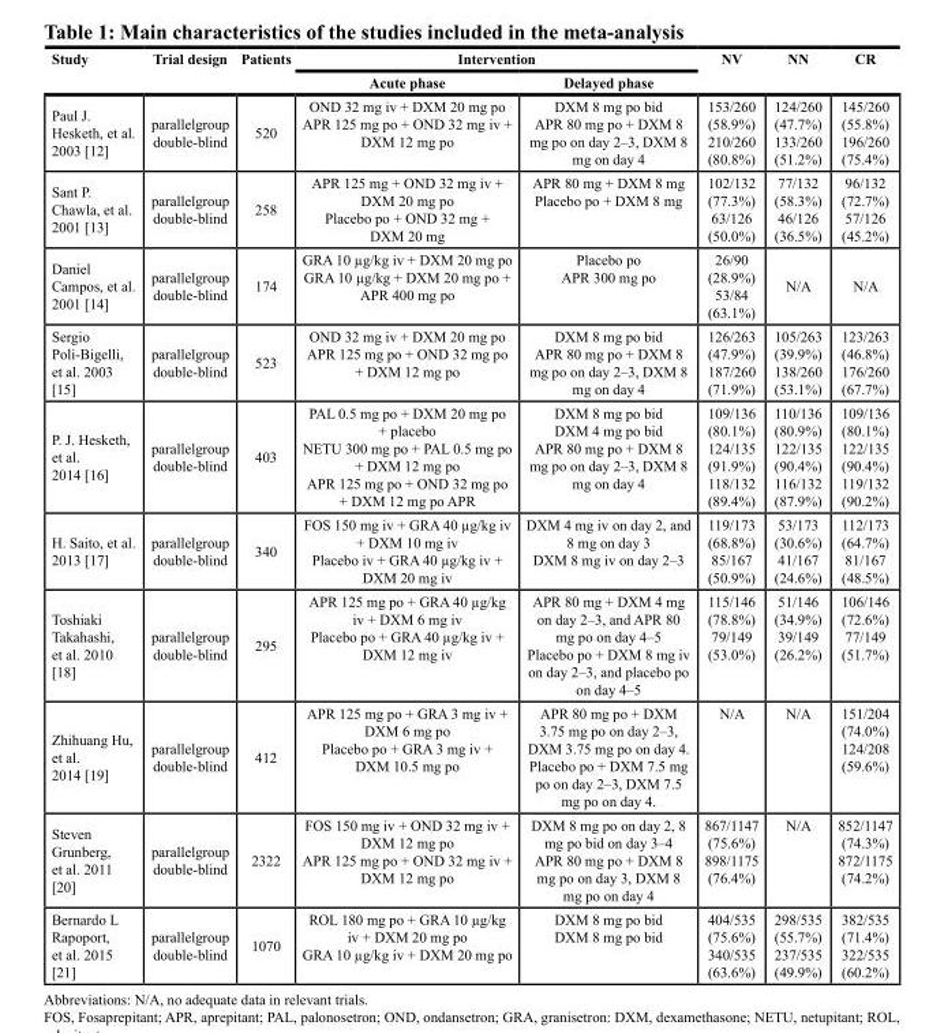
<table><thead><tr><td rowspan="2">Study</td><td rowspan="2">Trial design</td><td rowspan="2">Patients</td><td colspan="2">Intervention</td><td rowspan="2">NV</td><td rowspan="2">NN</td><td rowspan="2">CR</td></tr><tr><td>Acute phase</td><td>Delayed phase</td></tr></thead><tbody><tr><td>Paul J. Hesketh, et al. 2003 [12]</td><td>parallelgroup double‑blind</td><td>520</td><td>OND 32 mg iv + DXM 20 mg po APR 125 mg po + OND 32 mg iv + DXM 12 mg po</td><td>DXM 8 mg po bid APR 80 mg po + DXM 8 mg po on day 2–3, DXM 8 mg on day 4</td><td>153/260 (58.9%) 210/260 (80.8%)</td><td>124/260 (47.7%) 133/260 (51.2%)</td><td>145/260 (55.8%) 196/260 (75.4%)</td></tr><tr><td>Sant P. Chawla, et al. 2001 [13]</td><td>parallelgroup double‑blind</td><td>258</td><td>APR 125 mg + OND 32 mg iv + DXM 20 mg po Placebo po + OND 32 mg + DXM 20 mg</td><td>APR 80 mg + DXM 8 mg Placebo po + DXM 8 mg</td><td>102/132 (77.3%) 63/126 (50.0%)</td><td>77/132 (58.3%) 46/126 (36.5%)</td><td>96/132 (72.7%) 57/126 (45.2%)</td></tr><tr><td>Daniel Campos, et al. 2001 [14]</td><td>parallelgroup double‑blind</td><td>174</td><td>GRA 10 µg/kg iv + DXM 20 mg po GRA 10 µg/kg + DXM 20 mg po + APR 400 mg po</td><td>Placebo po APR 300 mg po</td><td>26/90 (28.9%) 53/84 (63.1%)</td><td>N/A</td><td>N/A</td></tr><tr><td>Sergio Poli‑Bigelli, et al. 2003 [15]</td><td>parallelgroup double‑blind</td><td>523</td><td>OND 32 mg iv + DXM 20 mg po APR 125 mg po + OND 32 mg po + DXM 12 mg po</td><td>DXM 8 mg po bid APR 80 mg po + DXM 8 mg po on day 2–3, DXM 8 mg on day 4</td><td>126/263 (47.9%) 187/260 (71.9%)</td><td>105/263 (39.9%) 138/260 (53.1%)</td><td>123/263 (46.8%) 176/260 (67.7%)</td></tr><tr><td>P. J. Hesketh, et al. 2014 [16]</td><td>parallelgroup double‑blind</td><td>403</td><td>PAL 0.5 mg po + DXM 20 mg po + placebo NETU 300 mg po + PAL 0.5 mg po + DXM 12 mg po APR 125 mg po + OND 32 mg po + DXM 12 mg po APR</td><td>DXM 8 mg po bid DXM 4 mg po bid APR 80 mg po + DXM 8 mg po on day 2–3, DXM 8 mg on day 4</td><td>109/136 (80.1%) 124/135 (91.9%) 118/132 (89.4%)</td><td>110/136 (80.9%) 122/135 (90.4%) 116/132 (87.9%)</td><td>109/136 (80.1%) 122/135 (90.4%) 119/132 (90.2%)</td></tr><tr><td>H. Saito, et al. 2013 [17]</td><td>parallelgroup double‑blind</td><td>340</td><td>FOS 150 mg iv + GRA 40 µg/kg iv + DXM 10 mg iv Placebo iv + GRA 40 µg/kg iv + DXM 20 mg iv</td><td>DXM 4 mg iv on day 2, and 8 mg on day 3 DXM 8 mg iv on day 2–3</td><td>119/173 (68.8%) 85/167 (50.9%)</td><td>53/173 (30.6%) 41/167 (24.6%)</td><td>112/173 (64.7%) 81/167 (48.5%)</td></tr><tr><td>Toshiaki Takahashi, et al. 2010 [18]</td><td>parallelgroup double‑blind</td><td>295</td><td>APR 125 mg po + GRA 40 µg/kg iv + DXM 6 mg iv Placebo po + GRA 40 µg/kg iv + DXM 12 mg iv</td><td>APR 80 mg + DXM 4 mg on day 2–3, and APR 80 mg po on day 4–5 Placebo po + DXM 8 mg iv on day 2–3, and placebo po on day 4–5</td><td>115/146 (78.8%) 79/149 (53.0%)</td><td>51/146 (34.9%) 39/149 (26.2%)</td><td>106/146 (72.6%) 77/149 (51.7%)</td></tr><tr><td>Zhihuang Hu, et al. 2014 [19]</td><td>parallelgroup double‑blind</td><td>412</td><td>APR 125 mg po + GRA 3 mg iv + DXM 6 mg po Placebo po + GRA 3 mg iv + DXM 10.5 mg po</td><td>APR 80 mg po + DXM 3.75 mg po on day 2–3, DXM 3.75 mg po on day 4. Placebo po + DXM 7.5 mg po on day 2–3, DXM 7.5 mg po on day 4.</td><td>N/A</td><td>N/A</td><td>151/204 (74.0%) 124/208 (59.6%)</td></tr><tr><td>Steven Grunberg, et al. 2011 [20]</td><td>parallelgroup double‑blind</td><td>2322</td><td>FOS 150 mg iv + OND 32 mg iv + DXM 12 mg po APR 125 mg po + OND 32 mg iv + DXM 12 mg po</td><td>DXM 8 mg po on day 2, 8 mg po bid on day 3–4 APR 80 mg po + DXM 8 mg po on day 3, DXM 8 mg po on day 4</td><td>867/1147 (75.6%) 898/1175 (76.4%)</td><td>N/A</td><td>852/1147 (74.3%) 872/1175 (74.2%)</td></tr><tr><td>Bernardo L Rapoport, et al. 2015 [21]</td><td>parallelgroup double‑blind</td><td>1070</td><td>ROL 180 mg po + GRA 10 µg/kg iv + DXM 20 mg po GRA 10 µg/kg iv + DXM 20 mg po</td><td>DXM 8 mg po bid DXM 8 mg po bid</td><td>404/535 (75.6%) 340/535 (63.6%)</td><td>298/535 (55.7%) 237/535 (49.9%)</td><td>382/535 (71.4%) 322/535 (60.2%)</td></tr></tbody></table>